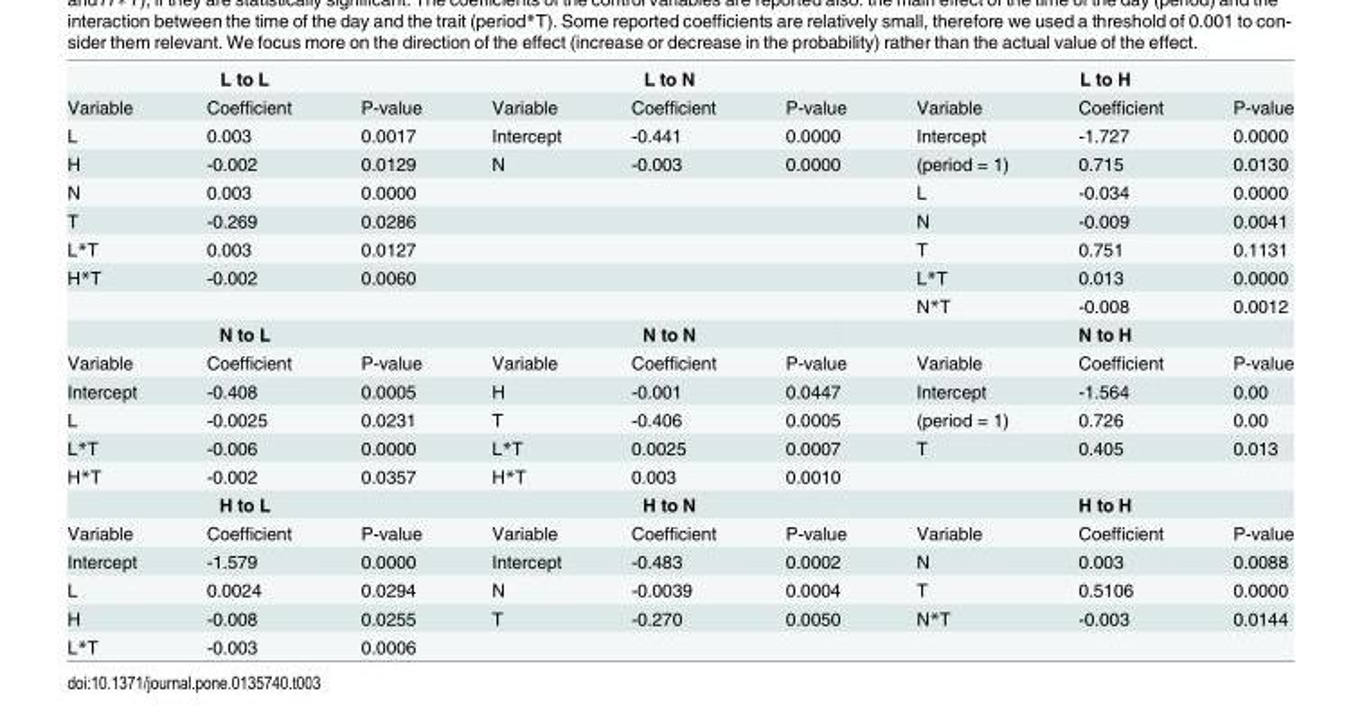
<table><tbody><tr><td colspan="3">L to L</td><td colspan="3">L to N</td><td colspan="3">L to H</td></tr><tr><td>Variable</td><td>Coefficient</td><td>P-value</td><td>Variable</td><td>Coefficient</td><td>P-value</td><td>Variable</td><td>Coefficient</td><td>P-value</td></tr><tr><td>L</td><td>0.003</td><td>0.0017</td><td>Intercept</td><td>-0.441</td><td>0.0000</td><td>Intercept</td><td>-1.727</td><td>0.0000</td></tr><tr><td>H</td><td>-0.002</td><td>0.0129</td><td>N</td><td>-0.003</td><td>0.0000</td><td>(period = 1)</td><td>0.715</td><td>0.0130</td></tr><tr><td>N</td><td>0.003</td><td>0.0000</td><td></td><td></td><td></td><td>L</td><td>-0.034</td><td>0.0000</td></tr><tr><td>T</td><td>-0.269</td><td>0.0286</td><td></td><td></td><td></td><td>N</td><td>-0.009</td><td>0.0041</td></tr><tr><td>L*T</td><td>0.003</td><td>0.0127</td><td></td><td></td><td></td><td>T</td><td>0.751</td><td>0.1131</td></tr><tr><td rowspan="2">H*T</td><td>-0.002</td><td>0.0060</td><td></td><td></td><td></td><td>L*T</td><td>0.013</td><td>0.0000</td></tr><tr><td></td><td></td><td></td><td></td><td></td><td>N*T</td><td>-0.008</td><td>0.0012</td></tr><tr><td colspan="3">N to L</td><td colspan="3">N to N</td><td colspan="3">N to H</td></tr><tr><td>Variable</td><td>Coefficient</td><td>P-value</td><td>Variable</td><td>Coefficient</td><td>P-value</td><td>Variable</td><td>Coefficient</td><td>P-value</td></tr><tr><td>Intercept</td><td>-0.408</td><td>0.0005</td><td>H</td><td>-0.001</td><td>0.0447</td><td>Intercept</td><td>-1.564</td><td>0.00</td></tr><tr><td>L</td><td>-0.0025</td><td>0.0231</td><td>T</td><td>-0.406</td><td>0.0005</td><td>(period = 1)</td><td>0.726</td><td>0.00</td></tr><tr><td>L*T</td><td>-0.006</td><td>0.0000</td><td>L*T</td><td>0.0025</td><td>0.0007</td><td>T</td><td>0.405</td><td>0.013</td></tr><tr><td>H*T</td><td>-0.002</td><td>0.0357</td><td>H*T</td><td>0.003</td><td>0.0010</td><td></td><td></td><td></td></tr><tr><td colspan="3">H to L</td><td colspan="3">H to N</td><td colspan="3">H to H</td></tr><tr><td>Variable</td><td>Coefficient</td><td>P-value</td><td>Variable</td><td>Coefficient</td><td>P-value</td><td>Variable</td><td>Coefficient</td><td>P-value</td></tr><tr><td>Intercept</td><td>-1.579</td><td>0.0000</td><td>Intercept</td><td>-0.483</td><td>0.0002</td><td>N</td><td>0.003</td><td>0.0088</td></tr><tr><td>L</td><td>0.0024</td><td>0.0294</td><td>N</td><td>-0.0039</td><td>0.0004</td><td>T</td><td>0.5106</td><td>0.0000</td></tr><tr><td>H</td><td>-0.008</td><td>0.0255</td><td>T</td><td>-0.270</td><td>0.0050</td><td>N*T</td><td>-0.003</td><td>0.0144</td></tr><tr><td>L*T</td><td>-0.003</td><td>0.0006</td><td></td><td></td><td></td><td></td><td></td><td></td></tr></tbody></table>